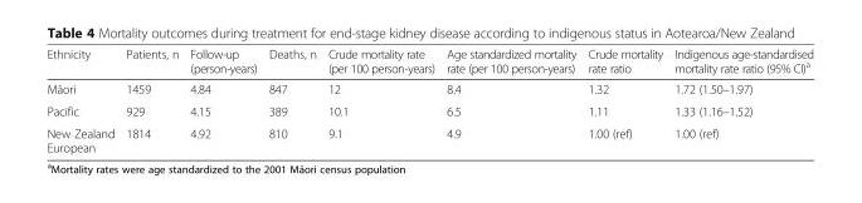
<table><thead><tr><td>Ethnicity</td><td>Patients, n</td><td>Follow-up (person-years)</td><td>Deaths, n</td><td>Crude mortality rate (per 100 person-years)</td><td>Age standardized mortality rate (per 100 person-years)</td><td>Crude mortality rate ratio</td><td>Indigenous age-standardised mortality rate ratio (95% CI)<sup>a</sup></td></tr></thead><tbody><tr><td>Māori</td><td>1459</td><td>4.84</td><td>847</td><td>12</td><td>8.4</td><td>1.32</td><td>1.72 (1.50–1.97)</td></tr><tr><td>Pacific</td><td>929</td><td>4.15</td><td>389</td><td>10.1</td><td>6.5</td><td>1.11</td><td>1.33 (1.16–1.52)</td></tr><tr><td>New Zealand European</td><td>1814</td><td>4.92</td><td>810</td><td>9.1</td><td>4.9</td><td>1.00 (ref)</td><td>1.00 (ref)</td></tr></tbody></table>